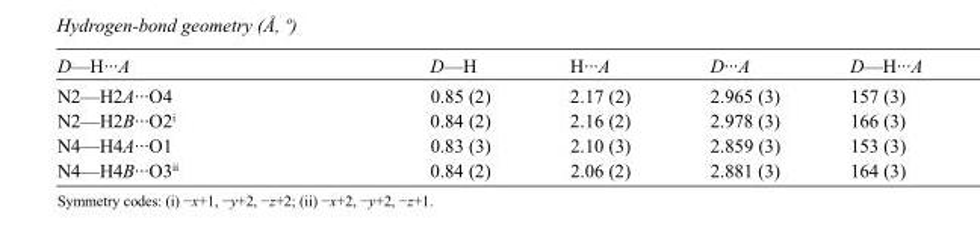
<table><tbody><tr><td>D—H···A</td><td>D—H</td><td>H···A</td><td>D···A</td><td>D—H···A</td></tr><tr><td>N2—H2A···O4</td><td>0.85 (2)</td><td>2.17 (2)</td><td>2.965 (3)</td><td>157 (3)</td></tr><tr><td>N2—H2B···O2<sup>i</sup></td><td>0.84 (2)</td><td>2.16 (2)</td><td>2.978 (3)</td><td>166 (3)</td></tr><tr><td>N4—H4A···O1</td><td>0.83 (3)</td><td>2.10 (3)</td><td>2.859 (3)</td><td>153 (3)</td></tr><tr><td>N4—H4B···O3<sup>ii</sup></td><td>0.84 (2)</td><td>2.06 (2)</td><td>2.881 (3)</td><td>164 (3)</td></tr></tbody></table>